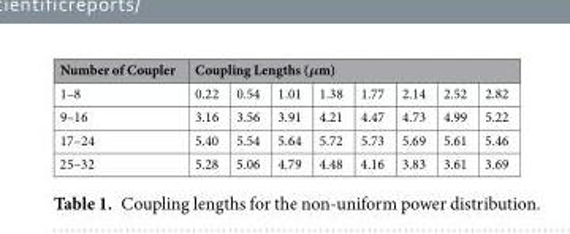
<table><thead><tr><td rowspan="2">Number of Coupler 1–8</td><td colspan="8">Coupling Lengths (μm)</td></tr><tr><td>0.22</td><td>0.54</td><td>1.01</td><td>1.38</td><td>1.77</td><td>2.14</td><td>2.52</td><td>2.82</td></tr></thead><tbody><tr><td>9–16</td><td>3.16</td><td>3.56</td><td>3.91</td><td>4.21</td><td>4.47</td><td>4.73</td><td>4.99</td><td>5.22</td></tr><tr><td>17–24</td><td>5.40</td><td>5.54</td><td>5.64</td><td>5.72</td><td>5.73</td><td>5.69</td><td>5.61</td><td>5.46</td></tr><tr><td>25–32</td><td>5.28</td><td>5.06</td><td>4.79</td><td>4.48</td><td>4.16</td><td>3.83</td><td>3.61</td><td>3.69</td></tr></tbody></table>